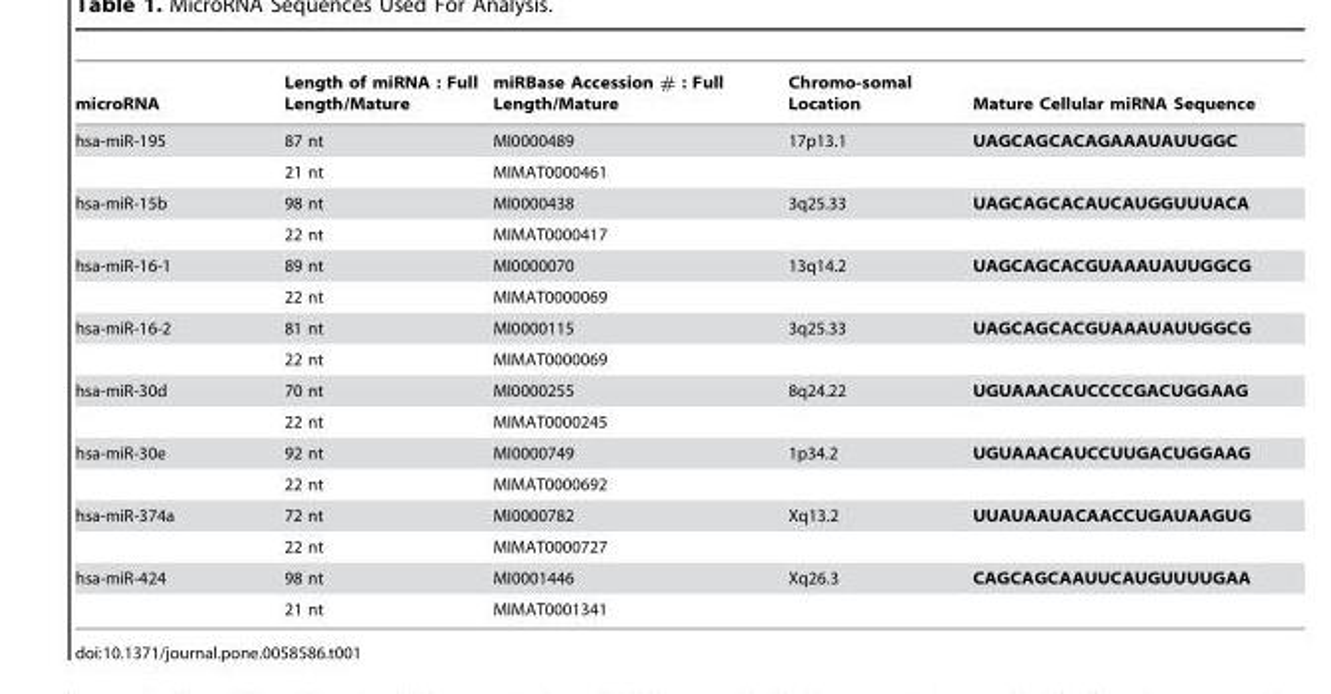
<table><thead><tr><td>microRNA</td><td>Length of miRNA : Full Length/Mature</td><td>miRBase Accession # : Full Length/Mature</td><td>Chromo-somal Location</td><td>Mature Cellular miRNA Sequence</td></tr></thead><tbody><tr><td rowspan="2">hsa-miR-195</td><td>87 nt</td><td>MI0000489</td><td>17p13.1</td><td>UAGCAGCACAGAAAUAUUGGC</td></tr><tr><td>21 nt</td><td>MIMAT0000461</td><td></td><td></td></tr><tr><td rowspan="2">hsa-miR-15b</td><td>98 nt</td><td>MI0000438</td><td>3q25.33</td><td>UAGCAGCACAUCAUGGUUUACA</td></tr><tr><td>22 nt</td><td>MIMAT0000417</td><td></td><td></td></tr><tr><td rowspan="2">hsa-miR-16-1</td><td>89 nt</td><td>MI0000070</td><td>13q14.2</td><td>UAGCAGCACGUAAAUAUUGGCG</td></tr><tr><td>22 nt</td><td>MIMAT0000069</td><td></td><td></td></tr><tr><td rowspan="2">hsa-miR-16-2</td><td>81 nt</td><td>MI0000115</td><td>3q25.33</td><td>UAGCAGCACGUAAAUAUUGGCG</td></tr><tr><td>22 nt</td><td>MIMAT0000069</td><td></td><td></td></tr><tr><td rowspan="2">hsa-miR-30d</td><td>70 nt</td><td>MI0000255</td><td>8q24.22</td><td>UGUAAACAUCCCCGACUGGAAG</td></tr><tr><td>22 nt</td><td>MIMAT0000245</td><td></td><td></td></tr><tr><td rowspan="2">hsa-miR-30e</td><td>92 nt</td><td>MI0000749</td><td>1p34.2</td><td>UGUAAACAUCCUUGACUGGAAG</td></tr><tr><td>22 nt</td><td>MIMAT0000692</td><td></td><td></td></tr><tr><td rowspan="2">hsa-miR-374a</td><td>72 nt</td><td>MI0000782</td><td>Xq13.2</td><td>UUAUAAUACAACCUGAUAAGUG</td></tr><tr><td>22 nt</td><td>MIMAT0000727</td><td></td><td></td></tr><tr><td rowspan="2">hsa-miR-424</td><td>98 nt</td><td>MI0001446</td><td>Xq26.3</td><td>CAGCAGCAAUUCAUGUUUUGAA</td></tr><tr><td>21 nt</td><td>MIMAT0001341</td><td></td><td></td></tr></tbody></table>